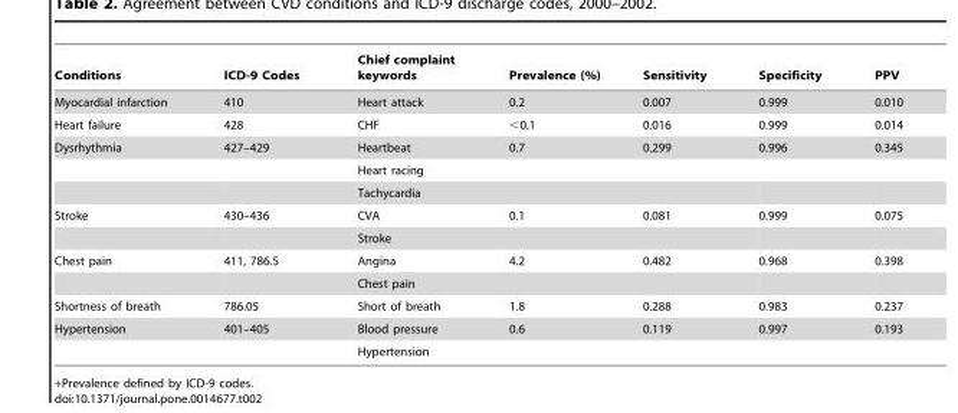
<table><thead><tr><td>Conditions</td><td>ICD-9 Codes</td><td>Chief complaint keywords</td><td>Prevalence (%)</td><td>Sensitivity</td><td>Specificity</td><td>PPV</td></tr></thead><tbody><tr><td>Myocardial infarction</td><td>410</td><td>Heart attack</td><td>0.2</td><td>0.007</td><td>0.999</td><td>0.010</td></tr><tr><td>Heart failure</td><td>428</td><td>CHF</td><td>&lt;0.1</td><td>0.016</td><td>0.999</td><td>0.014</td></tr><tr><td rowspan="3">Dysrhythmia</td><td>427–429</td><td>Heartbeat</td><td>0.7</td><td>0.299</td><td>0.996</td><td>0.345</td></tr><tr><td></td><td>Heart racing</td><td></td><td></td><td></td><td></td></tr><tr><td></td><td>Tachycardia</td><td></td><td></td><td></td><td></td></tr><tr><td rowspan="2">Stroke</td><td>430–436</td><td>CVA</td><td>0.1</td><td>0.081</td><td>0.999</td><td>0.075</td></tr><tr><td></td><td>Stroke</td><td></td><td></td><td></td><td></td></tr><tr><td rowspan="2">Chest pain</td><td>411, 786.5</td><td>Angina</td><td>4.2</td><td>0.482</td><td>0.968</td><td>0.398</td></tr><tr><td></td><td>Chest pain</td><td></td><td></td><td></td><td></td></tr><tr><td>Shortness of breath</td><td>786.05</td><td>Short of breath</td><td>1.8</td><td>0.288</td><td>0.983</td><td>0.237</td></tr><tr><td rowspan="2">Hypertension</td><td>401–405</td><td>Blood pressure</td><td>0.6</td><td>0.119</td><td>0.997</td><td>0.193</td></tr><tr><td></td><td>Hypertension</td><td></td><td></td><td></td><td></td></tr></tbody></table>